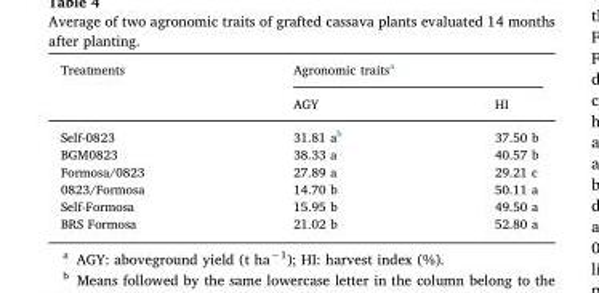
<table><thead><tr><td rowspan="2">Treatments</td><td colspan="2">Agronomic traits<sup>a</sup></td></tr><tr><td>AGY</td><td>HI</td></tr></thead><tbody><tr><td>Self-0823</td><td>31.81 a<sup>b</sup></td><td>37.50 b</td></tr><tr><td>BGM0823</td><td>38.33 a</td><td>40.57 b</td></tr><tr><td>Formosa/0823</td><td>27.89 a</td><td>29.21 c</td></tr><tr><td>0823/Formosa</td><td>14.70 b</td><td>50.11 a</td></tr><tr><td>Self-Formosa</td><td>15.95 b</td><td>49.50 a</td></tr><tr><td>BRS Formosa</td><td>21.02 b</td><td>52.80 a</td></tr></tbody></table>